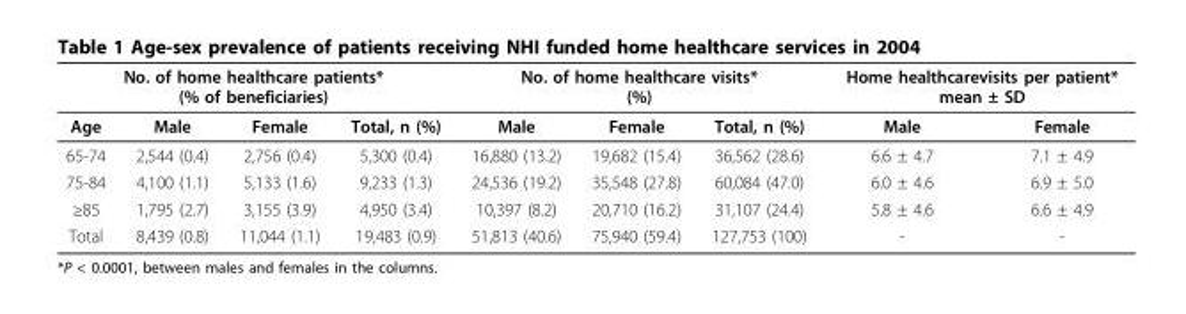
<table><thead><tr><td colspan="4">No. of home healthcare patients* (% of beneficiaries)</td><td colspan="3">No. of home healthcare visits* (%)</td><td colspan="2">Home healthcarevisits per patient* mean ± SD</td></tr><tr><td>Age</td><td>Male</td><td>Female</td><td>Total, n (%)</td><td>Male</td><td>Female</td><td>Total, n (%)</td><td>Male</td><td>Female</td></tr></thead><tbody><tr><td>65-74</td><td>2,544 (0.4)</td><td>2,756 (0.4)</td><td>5,300 (0.4)</td><td>16,880 (13.2)</td><td>19,682 (15.4)</td><td>36,562 (28.6)</td><td>6.6 ± 4.7</td><td>7.1 ± 4.9</td></tr><tr><td>75-84</td><td>4,100 (1.1)</td><td>5,133 (1.6)</td><td>9,233 (1.3)</td><td>24,536 (19.2)</td><td>35,548 (27.8)</td><td>60,084 (47.0)</td><td>6.0 ± 4.6</td><td>6.9 ± 5.0</td></tr><tr><td>≥85</td><td>1,795 (2.7)</td><td>3,155 (3.9)</td><td>4,950 (3.4)</td><td>10,397 (8.2)</td><td>20,710 (16.2)</td><td>31,107 (24.4)</td><td>5.8 ± 4.6</td><td>6.6 ± 4.9</td></tr><tr><td>Total</td><td>8,439 (0.8)</td><td>11,044 (1.1)</td><td>19,483 (0.9)</td><td>51,813 (40.6)</td><td>75,940 (59.4)</td><td>127,753 (100)</td><td>-</td><td>-</td></tr></tbody></table>